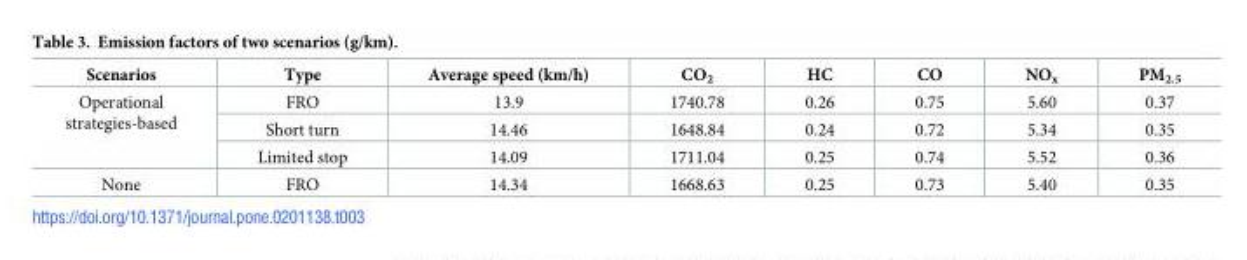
<table><thead><tr><td>Scenarios</td><td>Type</td><td>Average speed (km/h)</td><td>CO<sub>2</sub></td><td>HC</td><td>CO</td><td>NO<sub>x</sub></td><td>PM<sub>2.5</sub></td></tr></thead><tbody><tr><td rowspan="3">Operational strategies-based</td><td>FRO</td><td>13.9</td><td>1740.78</td><td>0.26</td><td>0.75</td><td>5.60</td><td>0.37</td></tr><tr><td>Short turn</td><td>14.46</td><td>1648.84</td><td>0.24</td><td>0.72</td><td>5.34</td><td>0.35</td></tr><tr><td>Limited stop</td><td>14.09</td><td>1711.04</td><td>0.25</td><td>0.74</td><td>5.52</td><td>0.36</td></tr><tr><td>None</td><td>FRO</td><td>14.34</td><td>1668.63</td><td>0.25</td><td>0.73</td><td>5.40</td><td>0.35</td></tr></tbody></table>